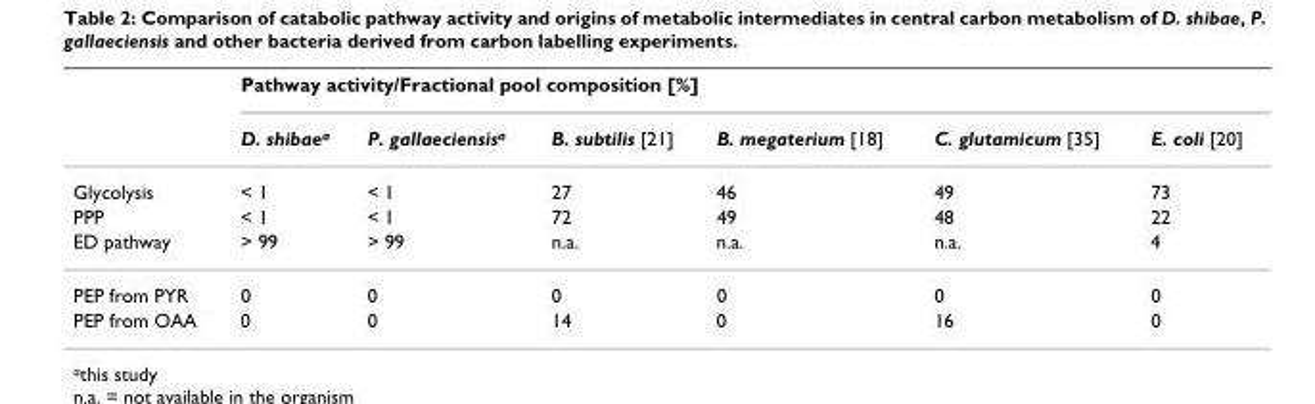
<table><thead><tr><td rowspan="2"></td><td colspan="6">Pathway activity/Fractional pool composition [%]</td></tr><tr><td>D. shibae<sup>a</sup></td><td>P. gallaeciensis<sup>a</sup></td><td>B. subtilis [21]</td><td>B. megaterium [18]</td><td>C. glutamicum [35]</td><td>E. coli [20]</td></tr></thead><tbody><tr><td>Glycolysis</td><td>&lt; 1</td><td>&lt; 1</td><td>27</td><td>46</td><td>49</td><td>73</td></tr><tr><td>PPP</td><td>&lt; 1</td><td>&lt; 1</td><td>72</td><td>49</td><td>48</td><td>22</td></tr><tr><td>ED pathway</td><td>&gt; 99</td><td>&gt; 99</td><td>n.a.</td><td>n.a.</td><td>n.a.</td><td>4</td></tr><tr><td>PEP from PYR</td><td>0</td><td>0</td><td>0</td><td>0</td><td>0</td><td>0</td></tr><tr><td>PEP from OAA</td><td>0</td><td>0</td><td>14</td><td>0</td><td>16</td><td>0</td></tr></tbody></table>